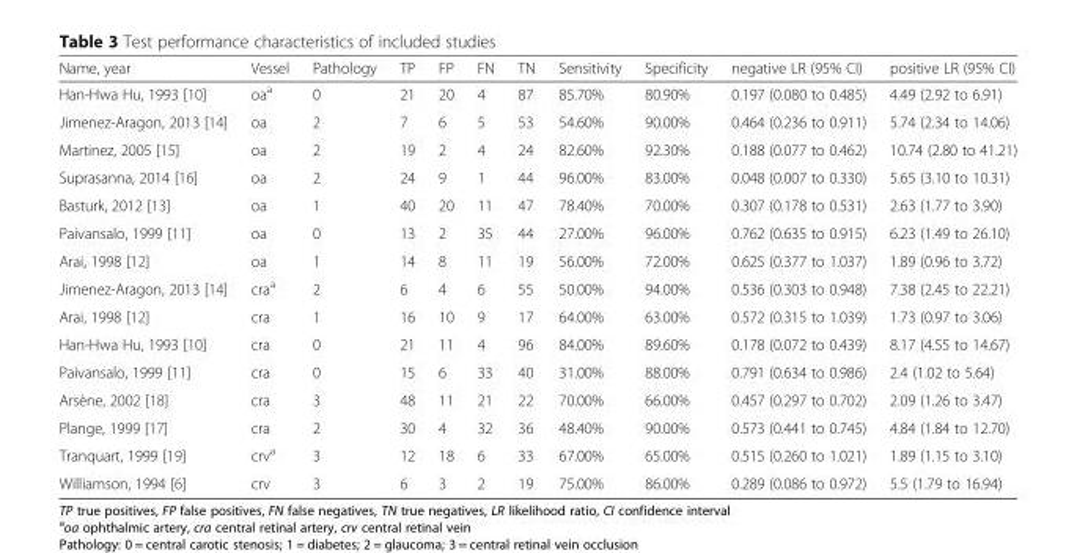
<table><thead><tr><td>Name, year</td><td>Vessel</td><td>Pathology</td><td>TP</td><td>FP</td><td>FN</td><td>TN</td><td>Sensitivity</td><td>Specificity</td><td>negative LR (95% CI)</td><td>positive LR (95% CI)</td></tr></thead><tbody><tr><td>Han-Hwa Hu, 1993 [10]</td><td>oa<sup>a</sup></td><td>0</td><td>21</td><td>20</td><td>4</td><td>87</td><td>85.70%</td><td>80.90%</td><td>0.197 (0.080 to 0.485)</td><td>4.49 (2.92 to 6.91)</td></tr><tr><td>Jimenez-Aragon, 2013 [14]</td><td>oa</td><td>2</td><td>7</td><td>6</td><td>5</td><td>53</td><td>54.60%</td><td>90.00%</td><td>0.464 (0.236 to 0.911)</td><td>5.74 (2.34 to 14.06)</td></tr><tr><td>Martinez, 2005 [15]</td><td>oa</td><td>2</td><td>19</td><td>2</td><td>4</td><td>24</td><td>82.60%</td><td>92.30%</td><td>0.188 (0.077 to 0.462)</td><td>10.74 (2.80 to 41.21)</td></tr><tr><td>Suprasanna, 2014 [16]</td><td>oa</td><td>2</td><td>24</td><td>9</td><td>1</td><td>44</td><td>96.00%</td><td>83.00%</td><td>0.048 (0.007 to 0.330)</td><td>5.65 (3.10 to 10.31)</td></tr><tr><td>Basturk, 2012 [13]</td><td>oa</td><td>1</td><td>40</td><td>20</td><td>11</td><td>47</td><td>78.40%</td><td>70.00%</td><td>0.307 (0.178 to 0.531)</td><td>2.63 (1.77 to 3.90)</td></tr><tr><td>Paivansalo, 1999 [11]</td><td>oa</td><td>0</td><td>13</td><td>2</td><td>35</td><td>44</td><td>27.00%</td><td>96.00%</td><td>0.762 (0.635 to 0.915)</td><td>6.23 (1.49 to 26.10)</td></tr><tr><td>Arai, 1998 [12]</td><td>oa</td><td>1</td><td>14</td><td>8</td><td>11</td><td>19</td><td>56.00%</td><td>72.00%</td><td>0.625 (0.377 to 1.037)</td><td>1.89 (0.96 to 3.72)</td></tr><tr><td>Jimenez-Aragon, 2013 [14]</td><td>cra<sup>a</sup></td><td>2</td><td>6</td><td>4</td><td>6</td><td>55</td><td>50.00%</td><td>94.00%</td><td>0.536 (0.303 to 0.948)</td><td>7.38 (2.45 to 22.21)</td></tr><tr><td>Arai, 1998 [12]</td><td>cra</td><td>1</td><td>16</td><td>10</td><td>9</td><td>17</td><td>64.00%</td><td>63.00%</td><td>0.572 (0.315 to 1.039)</td><td>1.73 (0.97 to 3.06)</td></tr><tr><td>Han-Hwa Hu, 1993 [10]</td><td>cra</td><td>0</td><td>21</td><td>11</td><td>4</td><td>96</td><td>84.00%</td><td>89.60%</td><td>0.178 (0.072 to 0.439)</td><td>8.17 (4.55 to 14.67)</td></tr><tr><td>Paivansalo, 1999 [11]</td><td>cra</td><td>0</td><td>15</td><td>6</td><td>33</td><td>40</td><td>31.00%</td><td>88.00%</td><td>0.791 (0.634 to 0.986)</td><td>2.4 (1.02 to 5.64)</td></tr><tr><td>Arsène, 2002 [18]</td><td>cra</td><td>3</td><td>48</td><td>11</td><td>21</td><td>22</td><td>70.00%</td><td>66.00%</td><td>0.457 (0.297 to 0.702)</td><td>2.09 (1.26 to 3.47)</td></tr><tr><td>Plange, 1999 [17]</td><td>cra</td><td>2</td><td>30</td><td>4</td><td>32</td><td>36</td><td>48.40%</td><td>90.00%</td><td>0.573 (0.441 to 0.745)</td><td>4.84 (1.84 to 12.70)</td></tr><tr><td>Tranquart, 1999 [19]</td><td>crv<sup>a</sup></td><td>3</td><td>12</td><td>18</td><td>6</td><td>33</td><td>67.00%</td><td>65.00%</td><td>0.515 (0.260 to 1.021)</td><td>1.89 (1.15 to 3.10)</td></tr><tr><td>Williamson, 1994 [6]</td><td>crv</td><td>3</td><td>6</td><td>3</td><td>2</td><td>19</td><td>75.00%</td><td>86.00%</td><td>0.289 (0.086 to 0.972)</td><td>5.5 (1.79 to 16.94)</td></tr></tbody></table>